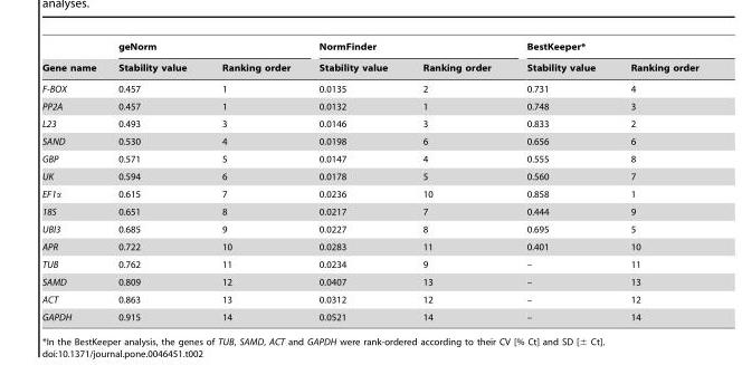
<table><thead><tr><td rowspan="2">Gene name</td><td colspan="2">geNorm</td><td colspan="2">NormFinder</td><td colspan="2">BestKeeper*</td></tr><tr><td>Stability value</td><td>Ranking order</td><td>Stability value</td><td>Ranking order</td><td>Stability value</td><td>Ranking order</td></tr></thead><tbody><tr><td>F-BOX</td><td>0.457</td><td>1</td><td>0.0135</td><td>2</td><td>0.731</td><td>4</td></tr><tr><td>PP2A</td><td>0.457</td><td>1</td><td>0.0132</td><td>1</td><td>0.748</td><td>3</td></tr><tr><td>L23</td><td>0.493</td><td>3</td><td>0.0146</td><td>3</td><td>0.833</td><td>2</td></tr><tr><td>SAND</td><td>0.530</td><td>4</td><td>0.0198</td><td>6</td><td>0.656</td><td>6</td></tr><tr><td>GBP</td><td>0.571</td><td>5</td><td>0.0147</td><td>4</td><td>0.555</td><td>8</td></tr><tr><td>UK</td><td>0.594</td><td>6</td><td>0.0178</td><td>5</td><td>0.560</td><td>7</td></tr><tr><td>EF1α</td><td>0.615</td><td>7</td><td>0.0236</td><td>10</td><td>0.858</td><td>1</td></tr><tr><td>18S</td><td>0.651</td><td>8</td><td>0.0217</td><td>7</td><td>0.444</td><td>9</td></tr><tr><td>UBI3</td><td>0.685</td><td>9</td><td>0.0227</td><td>8</td><td>0.695</td><td>5</td></tr><tr><td>APR</td><td>0.722</td><td>10</td><td>0.0283</td><td>11</td><td>0.401</td><td>10</td></tr><tr><td>TUB</td><td>0.762</td><td>11</td><td>0.0234</td><td>9</td><td>–</td><td>11</td></tr><tr><td>SAMD</td><td>0.809</td><td>12</td><td>0.0407</td><td>13</td><td>–</td><td>13</td></tr><tr><td>ACT</td><td>0.863</td><td>13</td><td>0.0312</td><td>12</td><td>–</td><td>12</td></tr><tr><td>GAPDH</td><td>0.915</td><td>14</td><td>0.0521</td><td>14</td><td>–</td><td>14</td></tr></tbody></table>